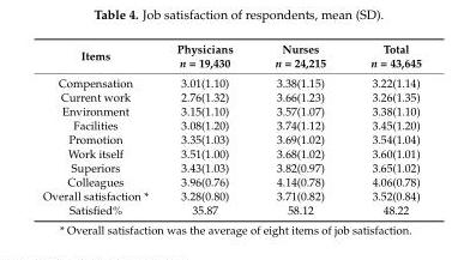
<table><thead><tr><td>Items</td><td>Physicians n = 19,430</td><td>Nurses n = 24,215</td><td>Total n = 43,645</td></tr></thead><tbody><tr><td>Compensation</td><td>3.01(1.10)</td><td>3.38(1.15)</td><td>3.22(1.14)</td></tr><tr><td>Current work</td><td>2.76(1.32)</td><td>3.66(1.23)</td><td>3.26(1.35)</td></tr><tr><td>Environment</td><td>3.15(1.10)</td><td>3.57(1.07)</td><td>3.38(1.10)</td></tr><tr><td>Facilities</td><td>3.08(1.20)</td><td>3.74(1.12)</td><td>3.45(1.20)</td></tr><tr><td>Promotion</td><td>3.35(1.03)</td><td>3.69(1.02)</td><td>3.54(1.04)</td></tr><tr><td>Work itself</td><td>3.51(1.00)</td><td>3.68(1.02)</td><td>3.60(1.01)</td></tr><tr><td>Superiors</td><td>3.43(1.03)</td><td>3.82(0.97)</td><td>3.65(1.02)</td></tr><tr><td>Colleagues</td><td>3.96(0.76)</td><td>4.14(0.78)</td><td>4.06(0.78)</td></tr><tr><td>Overall satisfaction *</td><td>3.28(0.80)</td><td>3.71(0.82)</td><td>3.52(0.84)</td></tr><tr><td>Satisfied%</td><td>35.87</td><td>58.12</td><td>48.22</td></tr></tbody></table>